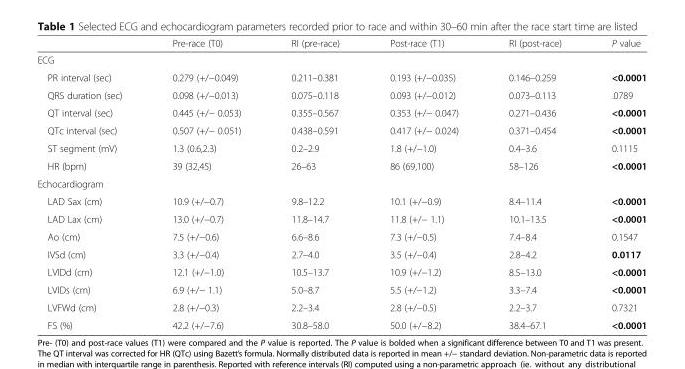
<table><thead><tr><td></td><td>Pre-race (T0)</td><td>RI (pre-race)</td><td>Post-race (T1)</td><td>RI (post-race)</td><td>P value</td></tr></thead><tbody><tr><td colspan="6">ECG</td></tr><tr><td>PR interval (sec)</td><td>0.279 (+/−0.049)</td><td>0.211–0.381</td><td>0.193 (+/−0.035)</td><td>0.146–0.259</td><td>&lt;0.0001</td></tr><tr><td>QRS duration (sec)</td><td>0.098 (+/−0.013)</td><td>0.075–0.118</td><td>0.093 (+/−0.012)</td><td>0.073–0.113</td><td>.0789</td></tr><tr><td>QT interval (sec)</td><td>0.445 (+/− 0.053)</td><td>0.355–0.567</td><td>0.353 (+/− 0.047)</td><td>0.271–0.436</td><td>&lt;0.0001</td></tr><tr><td>QTc interval (sec)</td><td>0.507 (+/− 0.051)</td><td>0.438–0.591</td><td>0.417 (+/− 0.024)</td><td>0.371–0.454</td><td>&lt;0.0001</td></tr><tr><td>ST segment (mV)</td><td>1.3 (0.6,2.3)</td><td>0.2–2.9</td><td>1.8 (+/−1.0)</td><td>0.4–3.6</td><td>0.1115</td></tr><tr><td>HR (bpm)</td><td>39 (32,45)</td><td>26–63</td><td>86 (69,100)</td><td>58–126</td><td>&lt;0.0001</td></tr><tr><td colspan="6">Echocardiogram</td></tr><tr><td>LAD Sax (cm)</td><td>10.9 (+/−0.7)</td><td>9.8–12.2</td><td>10.1 (+/−0.9)</td><td>8.4–11.4</td><td>&lt;0.0001</td></tr><tr><td>LAD Lax (cm)</td><td>13.0 (+/−0.7)</td><td>11.8–14.7</td><td>11.8 (+/− 1.1)</td><td>10.1–13.5</td><td>&lt;0.0001</td></tr><tr><td>Ao (cm)</td><td>7.5 (+/−0.6)</td><td>6.6–8.6</td><td>7.3 (+/−0.5)</td><td>7.4–8.4</td><td>0.1547</td></tr><tr><td>IVSd (cm)</td><td>3.3 (+/−0.4)</td><td>2.7–4.0</td><td>3.5 (+/−0.4)</td><td>2.8–4.2</td><td>0.0117</td></tr><tr><td>LVIDd (cm)</td><td>12.1 (+/−1.0)</td><td>10.5–13.7</td><td>10.9 (+/−1.2)</td><td>8.5–13.0</td><td>&lt;0.0001</td></tr><tr><td>LVIDs (cm)</td><td>6.9 (+/− 1.1)</td><td>5.0–8.7</td><td>5.5 (+/−1.2)</td><td>3.3–7.4</td><td>&lt;0.0001</td></tr><tr><td>LVFWd (cm)</td><td>2.8 (+/−0.3)</td><td>2.2–3.4</td><td>2.8 (+/−0.5)</td><td>2.2–3.7</td><td>0.7321</td></tr><tr><td>FS (%)</td><td>42.2 (+/−7.6)</td><td>30.8–58.0</td><td>50.0 (+/−8.2)</td><td>38.4–67.1</td><td>&lt;0.0001</td></tr></tbody></table>